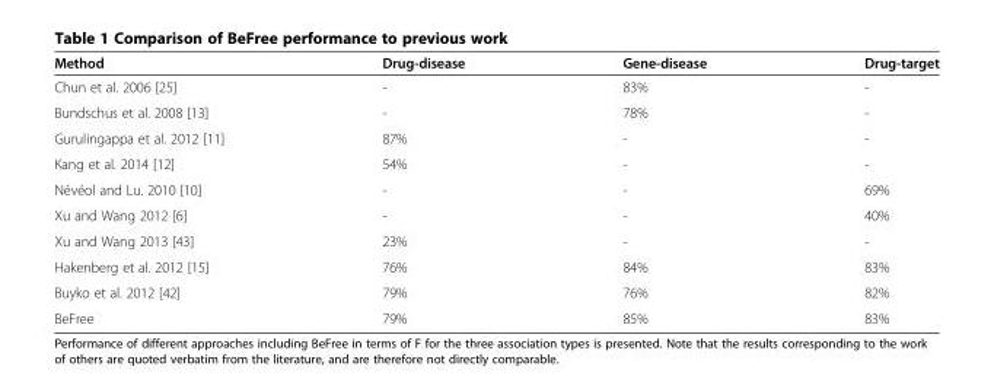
<table><thead><tr><td>Method</td><td>Drug-disease</td><td>Gene-disease</td><td>Drug-target</td></tr></thead><tbody><tr><td>Chun et al. 2006 [25]</td><td>-</td><td>83%</td><td>-</td></tr><tr><td>Bundschus et al. 2008 [13]</td><td>-</td><td>78%</td><td>-</td></tr><tr><td>Gurulingappa et al. 2012 [11]</td><td>87%</td><td>-</td><td>-</td></tr><tr><td>Kang et al. 2014 [12]</td><td>54%</td><td>-</td><td>-</td></tr><tr><td>Névéol and Lu. 2010 [10]</td><td>-</td><td>-</td><td>69%</td></tr><tr><td>Xu and Wang 2012 [6]</td><td>-</td><td>-</td><td>40%</td></tr><tr><td>Xu and Wang 2013 [43]</td><td>23%</td><td>-</td><td>-</td></tr><tr><td>Hakenberg et al. 2012 [15]</td><td>76%</td><td>84%</td><td>83%</td></tr><tr><td>Buyko et al. 2012 [42]</td><td>79%</td><td>76%</td><td>82%</td></tr><tr><td>BeFree</td><td>79%</td><td>85%</td><td>83%</td></tr></tbody></table>